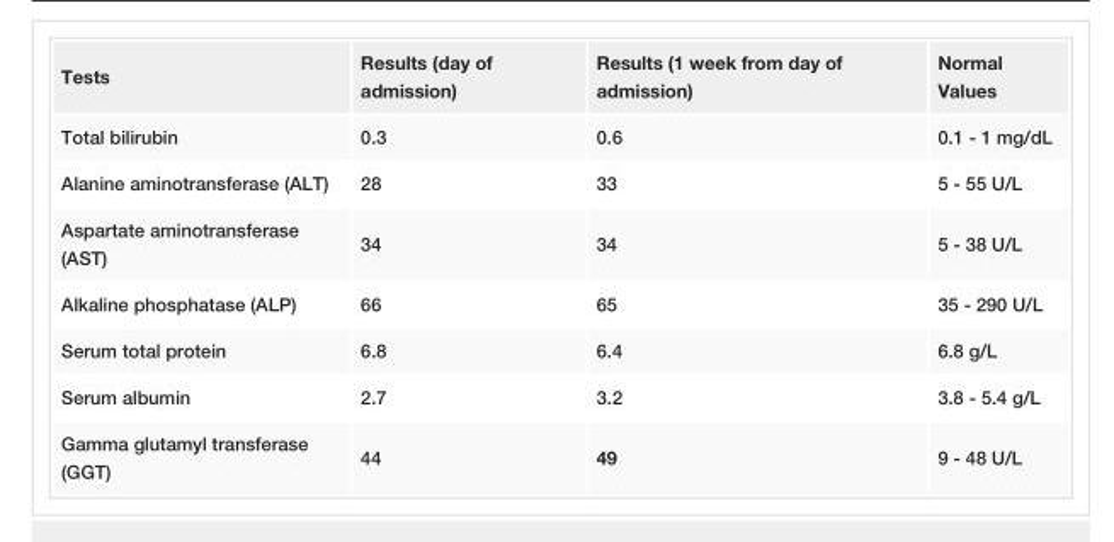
<table><tbody><tr><td>Tests</td><td>Results (day of admission)</td><td>Results (1 week from day of admission)</td><td>Normal Values</td></tr><tr><td>Total bilirubin</td><td>0.3</td><td>0.6</td><td>0.1 - 1 mg/dL</td></tr><tr><td>Alanine aminotransferase (ALT)</td><td>28</td><td>33</td><td>5 - 55 U/L</td></tr><tr><td>Aspartate aminotransferase (AST)</td><td>34</td><td>34</td><td>5 - 38 U/L</td></tr><tr><td>Alkaline phosphatase (ALP)</td><td>66</td><td>65</td><td>35 - 290 U/L</td></tr><tr><td>Serum total protein</td><td>6.8</td><td>6.4</td><td>6.8 g/L</td></tr><tr><td>Serum albumin</td><td>2.7</td><td>3.2</td><td>3.8 - 5.4 g/L</td></tr><tr><td>Gamma glutamyl transferase (GGT)</td><td>44</td><td>49</td><td>9 - 48 U/L</td></tr></tbody></table>